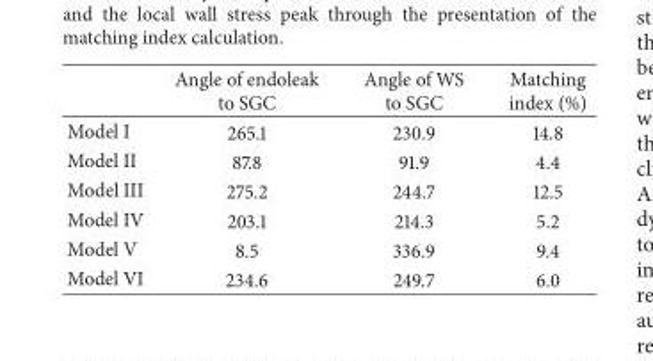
<table><thead><tr><td></td><td>Angle of endoleak to SGC</td><td>Angle of WS to SGC</td><td>Matching index (%)</td></tr></thead><tbody><tr><td>Model I</td><td>265.1</td><td>230.9</td><td>14.8</td></tr><tr><td>Model II</td><td>87.8</td><td>91.9</td><td>4.4</td></tr><tr><td>Model III</td><td>275.2</td><td>244.7</td><td>12.5</td></tr><tr><td>Model IV</td><td>203.1</td><td>214.3</td><td>5.2</td></tr><tr><td>Model V</td><td>8.5</td><td>336.9</td><td>9.4</td></tr><tr><td>Model VI</td><td>234.6</td><td>249.7</td><td>6.0</td></tr></tbody></table>